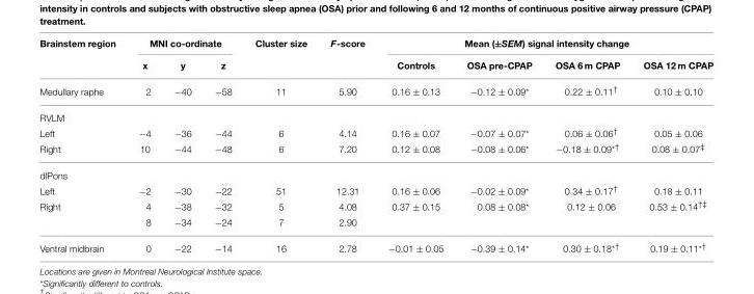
<table><thead><tr><td rowspan="2">Brainstem region</td><td colspan="3">MNI co-ordinate</td><td rowspan="2">Cluster size</td><td rowspan="2">F-score</td><td colspan="4">Mean (±SEM) signal intensity change</td></tr><tr><td>x</td><td>y</td><td>z</td><td>Controls</td><td>OSA pre-CPAP</td><td>OSA 6 m CPAP</td><td>OSA 12 m CPAP</td></tr></thead><tbody><tr><td>Medullary raphe</td><td>2</td><td>−40</td><td>−58</td><td>11</td><td>5.90</td><td>0.16 ± 0.13</td><td>−0.12 ± 0.09*</td><td>0.22 ± 0.11<sup>†</sup></td><td>0.10 ± 0.10</td></tr><tr><td colspan="10">RVLM</td></tr><tr><td>Left</td><td>−4</td><td>−36</td><td>−44</td><td>6</td><td>4.14</td><td>0.16 ± 0.07</td><td>−0.07 ± 0.07*</td><td>0.06 ± 0.06<sup>†</sup></td><td>0.05 ± 0.06</td></tr><tr><td>Right</td><td>10</td><td>−44</td><td>−48</td><td>6</td><td>7.20</td><td>0.12 ± 0.08</td><td>−0.08 ± 0.06*</td><td>−0.18 ± 0.09<sup>*†</sup></td><td>0.08 ± 0.07<sup>‡</sup></td></tr><tr><td colspan="10">dlPons</td></tr><tr><td>Left</td><td>−2</td><td>−30</td><td>−22</td><td>51</td><td>12.31</td><td>0.16 ± 0.06</td><td>−0.02 ± 0.09*</td><td>0.34 ± 0.17<sup>†</sup></td><td>0.18 ± 0.11</td></tr><tr><td rowspan="2">Right</td><td>4</td><td>−38</td><td>−32</td><td>5</td><td>4.08</td><td>0.37 ± 0.15</td><td>0.08 ± 0.08*</td><td>0.12 ± 0.06</td><td>0.53 ± 0.14<sup>†‡</sup></td></tr><tr><td>8</td><td>−34</td><td>−24</td><td>7</td><td>2.90</td><td></td><td></td><td></td><td></td></tr><tr><td>Ventral midbrain</td><td>0</td><td>−22</td><td>−14</td><td>16</td><td>2.78</td><td>−0.01 ± 0.05</td><td>−0.39 ± 0.14*</td><td>0.30 ± 0.18<sup>*†</sup></td><td>0.19 ± 0.11<sup>*†</sup></td></tr></tbody></table>